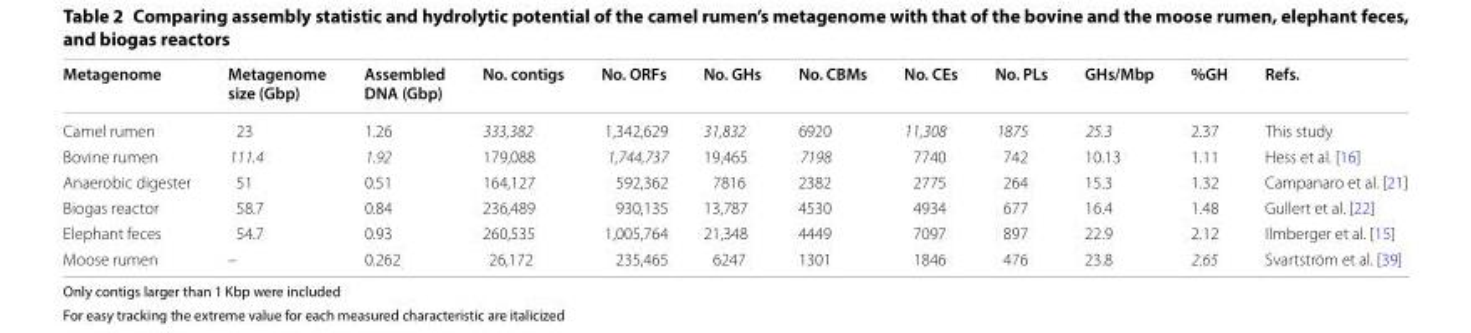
<table><thead><tr><td>Metagenome</td><td>Metagenome size (Gbp)</td><td>Assembled DNA (Gbp)</td><td>No. contigs</td><td>No. ORFs</td><td>No. GHs</td><td>No. CBMs</td><td>No. CEs</td><td>No. PLs</td><td>GHs/Mbp</td><td>%GH</td><td>Refs.</td></tr></thead><tbody><tr><td>Camel rumen</td><td>23</td><td>1.26</td><td>333,382</td><td>1,342,629</td><td>31,832</td><td>6920</td><td>11,308</td><td>1875</td><td>25.3</td><td>2.37</td><td>This study</td></tr><tr><td>Bovine rumen</td><td>111.4</td><td>1.92</td><td>179,088</td><td>1,744,737</td><td>19,465</td><td>7198</td><td>7740</td><td>742</td><td>10.13</td><td>1.11</td><td>Hess et al. [16]</td></tr><tr><td>Anaerobic digester</td><td>51</td><td>0.51</td><td>164,127</td><td>592,362</td><td>7816</td><td>2382</td><td>2775</td><td>264</td><td>15.3</td><td>1.32</td><td>Campanaro et al. [21]</td></tr><tr><td>Biogas reactor</td><td>58.7</td><td>0.84</td><td>236,489</td><td>930,135</td><td>13,787</td><td>4530</td><td>4934</td><td>677</td><td>16.4</td><td>1.48</td><td>Gullert et al. [22]</td></tr><tr><td>Elephant feces</td><td>54.7</td><td>0.93</td><td>260,535</td><td>1,005,764</td><td>21,348</td><td>4449</td><td>7097</td><td>897</td><td>22.9</td><td>2.12</td><td>Ilmberger et al. [15]</td></tr><tr><td>Moose rumen</td><td>–</td><td>0.262</td><td>26,172</td><td>235,465</td><td>6247</td><td>1301</td><td>1846</td><td>476</td><td>23.8</td><td>2.65</td><td>Svartström et al. [39]</td></tr></tbody></table>